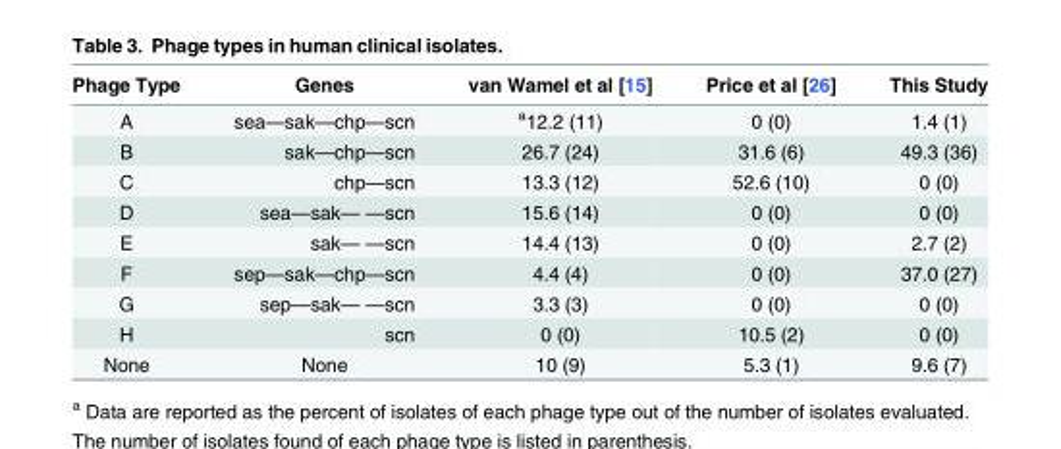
<table><thead><tr><td>Phage Type</td><td>Genes</td><td>van Wamel et al [15]</td><td>Price et al [26]</td><td>This Study</td></tr></thead><tbody><tr><td>A</td><td>sea—sak—chp—scn</td><td><sup>a</sup>12.2 (11)</td><td>0 (0)</td><td>1.4 (1)</td></tr><tr><td>B</td><td>sak—chp—scn</td><td>26.7 (24)</td><td>31.6 (6)</td><td>49.3 (36)</td></tr><tr><td>C</td><td>chp—scn</td><td>13.3 (12)</td><td>52.6 (10)</td><td>0 (0)</td></tr><tr><td>D</td><td>sea—sak— —scn</td><td>15.6 (14)</td><td>0 (0)</td><td>0 (0)</td></tr><tr><td>E</td><td>sak— —scn</td><td>14.4 (13)</td><td>0 (0)</td><td>2.7 (2)</td></tr><tr><td>F</td><td>sep—sak—chp—scn</td><td>4.4 (4)</td><td>0 (0)</td><td>37.0 (27)</td></tr><tr><td>G</td><td>sep—sak— —scn</td><td>3.3 (3)</td><td>0 (0)</td><td>0 (0)</td></tr><tr><td>H</td><td>scn</td><td>0 (0)</td><td>10.5 (2)</td><td>0 (0)</td></tr><tr><td>None</td><td>None</td><td>10 (9)</td><td>5.3 (1)</td><td>9.6 (7)</td></tr></tbody></table>